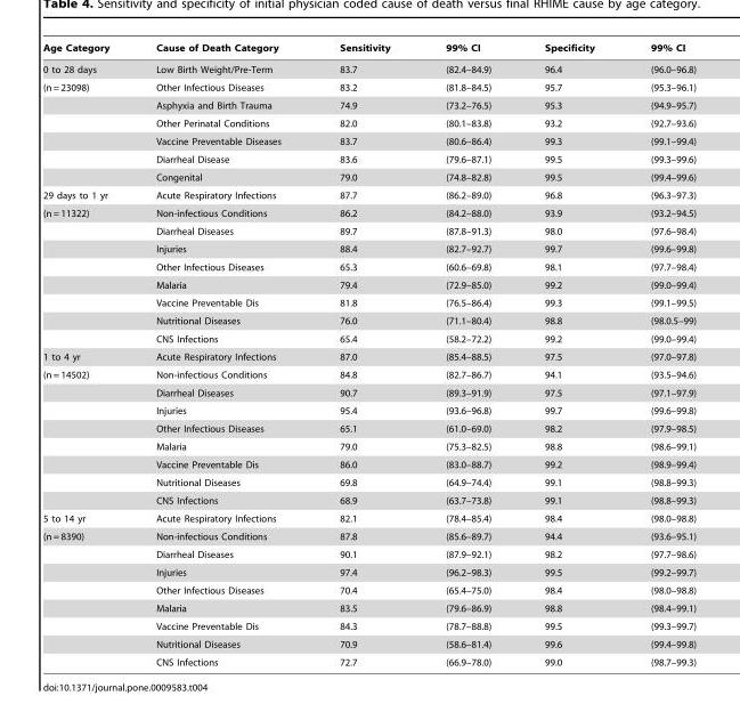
<table><thead><tr><td>Age Category</td><td>Cause of Death Category</td><td>Sensitivity</td><td>99% CI</td><td>Specificity</td><td>99% CI</td></tr></thead><tbody><tr><td>0 to 28 days</td><td>Low Birth Weight/Pre-Term</td><td>83.7</td><td>(82.4–84.9)</td><td>96.4</td><td>(96.0–96.8)</td></tr><tr><td rowspan="6">(n = 23098)</td><td>Other Infectious Diseases</td><td>83.2</td><td>(81.8–84.5)</td><td>95.7</td><td>(95.3–96.1)</td></tr><tr><td>Asphyxia and Birth Trauma</td><td>74.9</td><td>(73.2–76.5)</td><td>95.3</td><td>(94.9–95.7)</td></tr><tr><td>Other Perinatal Conditions</td><td>82.0</td><td>(80.1–83.8)</td><td>93.2</td><td>(92.7–93.6)</td></tr><tr><td>Vaccine Preventable Diseases</td><td>83.7</td><td>(80.6–86.4)</td><td>99.3</td><td>(99.1–99.4)</td></tr><tr><td>Diarrheal Disease</td><td>83.6</td><td>(79.6–87.1)</td><td>99.5</td><td>(99.3–99.6)</td></tr><tr><td>Congenital</td><td>79.0</td><td>(74.8–82.8)</td><td>99.5</td><td>(99.4–99.6)</td></tr><tr><td>29 days to 1 yr</td><td>Acute Respiratory Infections</td><td>87.7</td><td>(86.2–89.0)</td><td>96.8</td><td>(96.3–97.3)</td></tr><tr><td rowspan="8">(n = 11322)</td><td>Non-infectious Conditions</td><td>86.2</td><td>(84.2–88.0)</td><td>93.9</td><td>(93.2–94.5)</td></tr><tr><td>Diarrheal Diseases</td><td>89.7</td><td>(87.8–91.3)</td><td>98.0</td><td>(97.6–98.4)</td></tr><tr><td>Injuries</td><td>88.4</td><td>(82.7–92.7)</td><td>99.7</td><td>(99.6–99.8)</td></tr><tr><td>Other Infectious Diseases</td><td>65.3</td><td>(60.6–69.8)</td><td>98.1</td><td>(97.7–98.4)</td></tr><tr><td>Malaria</td><td>79.4</td><td>(72.9–85.0)</td><td>99.2</td><td>(99.0–99.4)</td></tr><tr><td>Vaccine Preventable Dis</td><td>81.8</td><td>(76.5–86.4)</td><td>99.3</td><td>(99.1–99.5)</td></tr><tr><td>Nutritional Diseases</td><td>76.0</td><td>(71.1–80.4)</td><td>98.8</td><td>(98.0.5–99)</td></tr><tr><td>CNS Infections</td><td>65.4</td><td>(58.2–72.2)</td><td>99.2</td><td>(99.0–99.4)</td></tr><tr><td>1 to 4 yr</td><td>Acute Respiratory Infections</td><td>87.0</td><td>(85.4–88.5)</td><td>97.5</td><td>(97.0–97.8)</td></tr><tr><td rowspan="8">(n = 14502)</td><td>Non-infectious Conditions</td><td>84.8</td><td>(82.7–86.7)</td><td>94.1</td><td>(93.5–94.6)</td></tr><tr><td>Diarrheal Diseases</td><td>90.7</td><td>(89.3–91.9)</td><td>97.5</td><td>(97.1–97.9)</td></tr><tr><td>Injuries</td><td>95.4</td><td>(93.6–96.8)</td><td>99.7</td><td>(99.6–99.8)</td></tr><tr><td>Other Infectious Diseases</td><td>65.1</td><td>(61.0–69.0)</td><td>98.2</td><td>(97.9–98.5)</td></tr><tr><td>Malaria</td><td>79.0</td><td>(75.3–82.5)</td><td>98.8</td><td>(98.6–99.1)</td></tr><tr><td>Vaccine Preventable Dis</td><td>86.0</td><td>(83.0–88.7)</td><td>99.2</td><td>(98.9–99.4)</td></tr><tr><td>Nutritional Diseases</td><td>69.8</td><td>(64.9–74.4)</td><td>99.1</td><td>(98.8–99.3)</td></tr><tr><td>CNS Infections</td><td>68.9</td><td>(63.7–73.8)</td><td>99.1</td><td>(98.8–99.3)</td></tr><tr><td>5 to 14 yr</td><td>Acute Respiratory Infections</td><td>82.1</td><td>(78.4–85.4)</td><td>98.4</td><td>(98.0–98.8)</td></tr><tr><td rowspan="8">(n = 8390)</td><td>Non-infectious Conditions</td><td>87.8</td><td>(85.6–89.7)</td><td>94.4</td><td>(93.6–95.1)</td></tr><tr><td>Diarrheal Diseases</td><td>90.1</td><td>(87.9–92.1)</td><td>98.2</td><td>(97.7–98.6)</td></tr><tr><td>Injuries</td><td>97.4</td><td>(96.2–98.3)</td><td>99.5</td><td>(99.2–99.7)</td></tr><tr><td>Other Infectious Diseases</td><td>70.4</td><td>(65.4–75.0)</td><td>98.4</td><td>(98.0–98.8)</td></tr><tr><td>Malaria</td><td>83.5</td><td>(79.6–86.9)</td><td>98.8</td><td>(98.4–99.1)</td></tr><tr><td>Vaccine Preventable Dis</td><td>84.3</td><td>(78.7–88.8)</td><td>99.5</td><td>(99.3–99.7)</td></tr><tr><td>Nutritional Diseases</td><td>70.9</td><td>(58.6–81.4)</td><td>99.6</td><td>(99.4–99.8)</td></tr><tr><td>CNS Infections</td><td>72.7</td><td>(66.9–78.0)</td><td>99.0</td><td>(98.7–99.3)</td></tr></tbody></table>